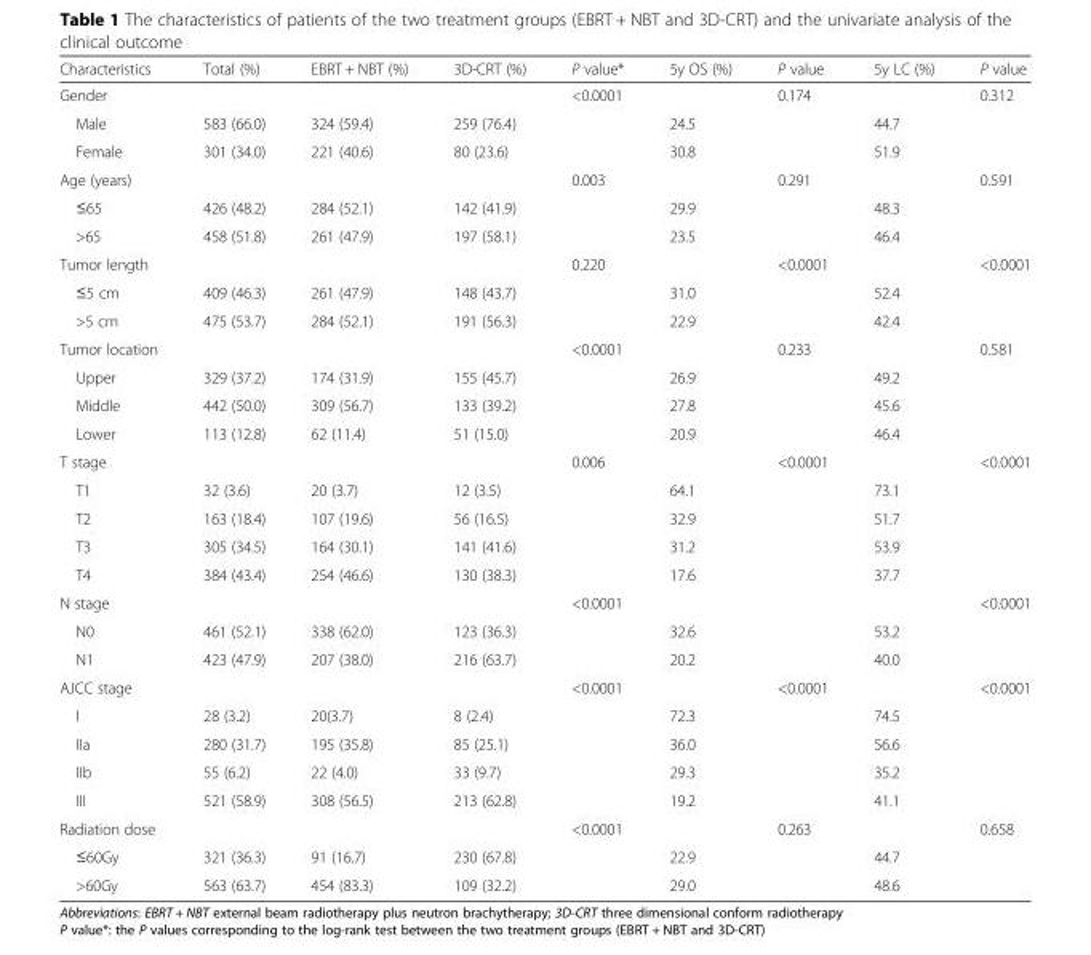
<table><thead><tr><td>Characteristics</td><td>Total (%)</td><td>EBRT + NBT (%)</td><td>3D-CRT (%)</td><td>P value*</td><td>5y OS (%)</td><td>P value</td><td>5y LC (%)</td><td>P value</td></tr></thead><tbody><tr><td>Gender</td><td colspan="3"></td><td>&lt;0.0001</td><td></td><td>0.174</td><td></td><td>0.312</td></tr><tr><td>Male</td><td>583 (66.0)</td><td>324 (59.4)</td><td>259 (76.4)</td><td></td><td>24.5</td><td></td><td>44.7</td><td></td></tr><tr><td>Female</td><td>301 (34.0)</td><td>221 (40.6)</td><td>80 (23.6)</td><td></td><td>30.8</td><td></td><td>51.9</td><td></td></tr><tr><td>Age (years)</td><td colspan="3"></td><td>0.003</td><td></td><td>0.291</td><td></td><td>0.591</td></tr><tr><td>≤65</td><td>426 (48.2)</td><td>284 (52.1)</td><td>142 (41.9)</td><td></td><td>29.9</td><td></td><td>48.3</td><td></td></tr><tr><td>&gt;65</td><td>458 (51.8)</td><td>261 (47.9)</td><td>197 (58.1)</td><td></td><td>23.5</td><td></td><td>46.4</td><td></td></tr><tr><td>Tumor length</td><td colspan="3"></td><td>0.220</td><td></td><td>&lt;0.0001</td><td></td><td>&lt;0.0001</td></tr><tr><td>≤5 cm</td><td>409 (46.3)</td><td>261 (47.9)</td><td>148 (43.7)</td><td></td><td>31.0</td><td></td><td>52.4</td><td></td></tr><tr><td>&gt;5 cm</td><td>475 (53.7)</td><td>284 (52.1)</td><td>191 (56.3)</td><td></td><td>22.9</td><td></td><td>42.4</td><td></td></tr><tr><td>Tumor location</td><td colspan="3"></td><td>&lt;0.0001</td><td></td><td>0.233</td><td></td><td>0.581</td></tr><tr><td>Upper</td><td>329 (37.2)</td><td>174 (31.9)</td><td>155 (45.7)</td><td></td><td>26.9</td><td></td><td>49.2</td><td></td></tr><tr><td>Middle</td><td>442 (50.0)</td><td>309 (56.7)</td><td>133 (39.2)</td><td></td><td>27.8</td><td></td><td>45.6</td><td></td></tr><tr><td>Lower</td><td>113 (12.8)</td><td>62 (11.4)</td><td>51 (15.0)</td><td></td><td>20.9</td><td></td><td>46.4</td><td></td></tr><tr><td>T stage</td><td colspan="3"></td><td>0.006</td><td></td><td>&lt;0.0001</td><td></td><td>&lt;0.0001</td></tr><tr><td>T1</td><td>32 (3.6)</td><td>20 (3.7)</td><td>12 (3.5)</td><td></td><td>64.1</td><td></td><td>73.1</td><td></td></tr><tr><td>T2</td><td>163 (18.4)</td><td>107 (19.6)</td><td>56 (16.5)</td><td></td><td>32.9</td><td></td><td>51.7</td><td></td></tr><tr><td>T3</td><td>305 (34.5)</td><td>164 (30.1)</td><td>141 (41.6)</td><td></td><td>31.2</td><td></td><td>53.9</td><td></td></tr><tr><td>T4</td><td>384 (43.4)</td><td>254 (46.6)</td><td>130 (38.3)</td><td></td><td>17.6</td><td></td><td>37.7</td><td></td></tr><tr><td>N stage</td><td colspan="3"></td><td>&lt;0.0001</td><td></td><td></td><td></td><td>&lt;0.0001</td></tr><tr><td>N0</td><td>461 (52.1)</td><td>338 (62.0)</td><td>123 (36.3)</td><td></td><td>32.6</td><td></td><td>53.2</td><td></td></tr><tr><td>N1</td><td>423 (47.9)</td><td>207 (38.0)</td><td>216 (63.7)</td><td></td><td>20.2</td><td></td><td>40.0</td><td></td></tr><tr><td>AJCC stage</td><td colspan="3"></td><td>&lt;0.0001</td><td></td><td>&lt;0.0001</td><td></td><td>&lt;0.0001</td></tr><tr><td>I</td><td>28 (3.2)</td><td>20(3.7)</td><td>8 (2.4)</td><td></td><td>72.3</td><td></td><td>74.5</td><td></td></tr><tr><td>IIa</td><td>280 (31.7)</td><td>195 (35.8)</td><td>85 (25.1)</td><td></td><td>36.0</td><td></td><td>56.6</td><td></td></tr><tr><td>IIb</td><td>55 (6.2)</td><td>22 (4.0)</td><td>33 (9.7)</td><td></td><td>29.3</td><td></td><td>35.2</td><td></td></tr><tr><td>III</td><td>521 (58.9)</td><td>308 (56.5)</td><td>213 (62.8)</td><td></td><td>19.2</td><td></td><td>41.1</td><td></td></tr><tr><td>Radiation dose</td><td colspan="3"></td><td>&lt;0.0001</td><td></td><td>0.263</td><td></td><td>0.658</td></tr><tr><td>≤60Gy</td><td>321 (36.3)</td><td>91 (16.7)</td><td>230 (67.8)</td><td></td><td>22.9</td><td></td><td>44.7</td><td></td></tr><tr><td>&gt;60Gy</td><td>563 (63.7)</td><td>454 (83.3)</td><td>109 (32.2)</td><td></td><td>29.0</td><td></td><td>48.6</td><td></td></tr></tbody></table>